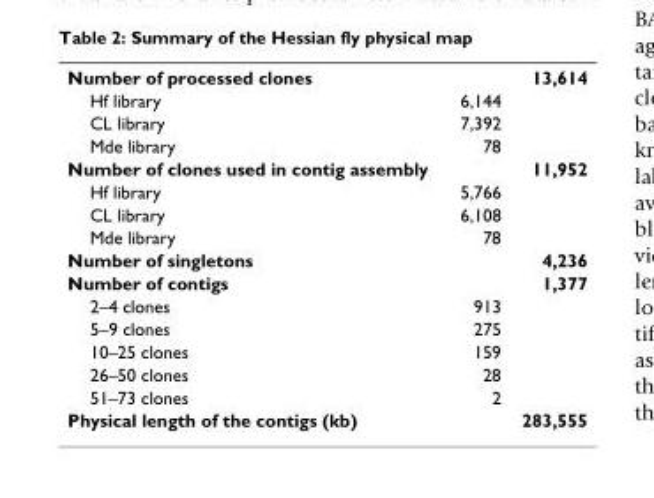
<table><tbody><tr><td>Number of processed clones</td><td></td><td>13,614</td></tr><tr><td>Hf library</td><td>6,144</td><td></td></tr><tr><td>CL library</td><td>7,392</td><td></td></tr><tr><td>Mde library</td><td>78</td><td></td></tr><tr><td>Number of clones used in contig assembly</td><td></td><td>11,952</td></tr><tr><td>Hf library</td><td>5,766</td><td></td></tr><tr><td>CL library</td><td>6,108</td><td></td></tr><tr><td>Mde library</td><td>78</td><td></td></tr><tr><td>Number of singletons</td><td></td><td>4,236</td></tr><tr><td>Number of contigs</td><td></td><td>1,377</td></tr><tr><td>2–4 clones</td><td>913</td><td></td></tr><tr><td>5–9 clones</td><td>275</td><td></td></tr><tr><td>10–25 clones</td><td>159</td><td></td></tr><tr><td>26–50 clones</td><td>28</td><td></td></tr><tr><td>51–73 clones</td><td>2</td><td></td></tr><tr><td>Physical length of the contigs (kb)</td><td></td><td>283,555</td></tr></tbody></table>